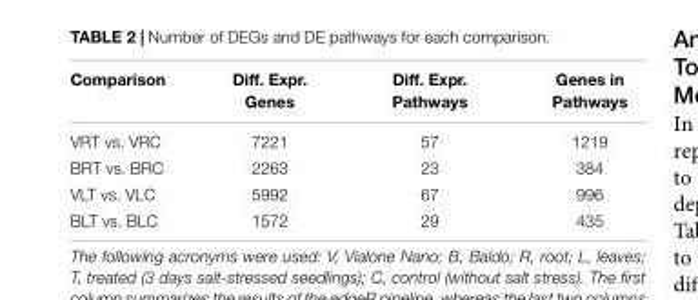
<table><thead><tr><td>Comparison</td><td>Diff. Expr. Genes</td><td>Diff. Expr. Pathways</td><td>Genes in Pathways</td></tr></thead><tbody><tr><td>VRT vs. VRC</td><td>7221</td><td>57</td><td>1219</td></tr><tr><td>BRT vs. BRC</td><td>2263</td><td>23</td><td>384</td></tr><tr><td>VLT vs. VLC</td><td>5992</td><td>67</td><td>996</td></tr><tr><td>BLT vs. BLC</td><td>1572</td><td>29</td><td>435</td></tr></tbody></table>